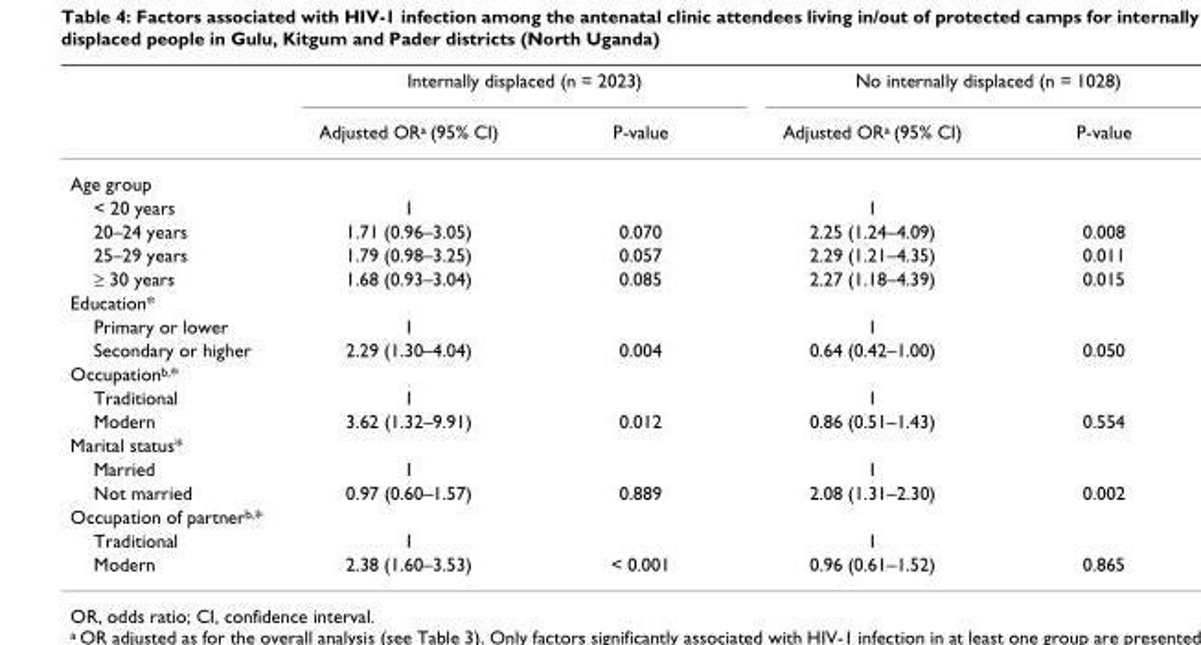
<table><thead><tr><td rowspan="2"></td><td colspan="2">Internally displaced (n = 2023)</td><td colspan="2">No internally displaced (n = 1028)</td></tr><tr><td>Adjusted OR<sup>a</sup> (95% CI)</td><td>P-value</td><td>Adjusted OR<sup>a</sup> (95% CI)</td><td>P-value</td></tr></thead><tbody><tr><td colspan="5">Age group</td></tr><tr><td>&lt; 20 years</td><td>1</td><td></td><td>1</td><td></td></tr><tr><td>20–24 years</td><td>1.71 (0.96–3.05)</td><td>0.070</td><td>2.25 (1.24–4.09)</td><td>0.008</td></tr><tr><td>25–29 years</td><td>1.79 (0.98–3.25)</td><td>0.057</td><td>2.29 (1.21–4.35)</td><td>0.011</td></tr><tr><td>≥ 30 years</td><td>1.68 (0.93–3.04)</td><td>0.085</td><td>2.27 (1.18–4.39)</td><td>0.015</td></tr><tr><td colspan="5">Education*</td></tr><tr><td>Primary or lower</td><td>1</td><td></td><td>1</td><td></td></tr><tr><td>Secondary or higher</td><td>2.29 (1.30–4.04)</td><td>0.004</td><td>0.64 (0.42–1.00)</td><td>0.050</td></tr><tr><td colspan="5">Occupation<sup>b,</sup>*</td></tr><tr><td>Traditional</td><td>1</td><td></td><td>1</td><td></td></tr><tr><td>Modern</td><td>3.62 (1.32–9.91)</td><td>0.012</td><td>0.86 (0.51–1.43)</td><td>0.554</td></tr><tr><td colspan="5">Marital status*</td></tr><tr><td>Married</td><td>1</td><td></td><td>1</td><td></td></tr><tr><td>Not married</td><td>0.97 (0.60–1.57)</td><td>0.889</td><td>2.08 (1.31–2.30)</td><td>0.002</td></tr><tr><td colspan="5">Occupation of partner<sup>b,</sup>*</td></tr><tr><td>Traditional</td><td>1</td><td></td><td>1</td><td></td></tr><tr><td>Modern</td><td>2.38 (1.60–3.53)</td><td>&lt; 0.001</td><td>0.96 (0.61–1.52)</td><td>0.865</td></tr></tbody></table>